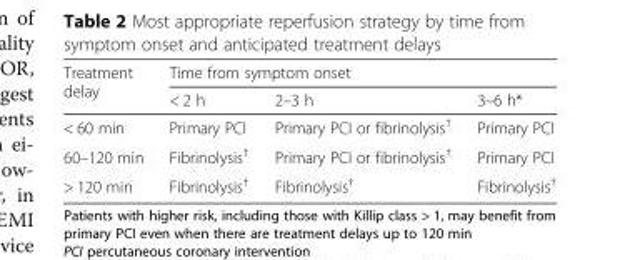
<table><thead><tr><td rowspan="2">Treatment delay</td><td colspan="3">Time from symptom onset</td></tr><tr><td>&lt; 2 h</td><td>2–3 h</td><td>3–6 h*</td></tr></thead><tbody><tr><td>&lt; 60 min</td><td>Primary PCI</td><td>Primary PCI or fibrinolysis<sup>†</sup></td><td>Primary PCI</td></tr><tr><td>60–120 min</td><td>Fibrinolysis<sup>†</sup></td><td>Primary PCI or fibrinolysis<sup>†</sup></td><td>Primary PCI</td></tr><tr><td>&gt; 120 min</td><td>Fibrinolysis<sup>†</sup></td><td>Fibrinolysis<sup>†</sup></td><td>Fibrinolysis<sup>†</sup></td></tr></tbody></table>